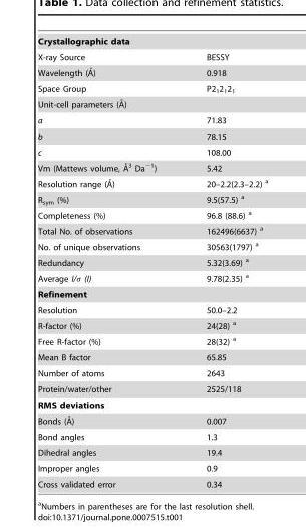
<table><tbody><tr><td colspan="2">Crystallographic data</td></tr><tr><td>X-ray Source</td><td>BESSY</td></tr><tr><td>Wavelength (A˚)</td><td>0.918</td></tr><tr><td>Space Group</td><td>P2<sub>1</sub>2<sub>1</sub>2<sub>1</sub></td></tr><tr><td colspan="2">Unit-cell parameters (A˚)</td></tr><tr><td>a</td><td>71.83</td></tr><tr><td>b</td><td>78.15</td></tr><tr><td>c</td><td>108.00</td></tr><tr><td>Vm (Mattews volume, A˚ 3 Da21)</td><td>5.42</td></tr><tr><td>Resolution range (A˚)</td><td>20–2.2(2.3–2.2) a</td></tr><tr><td>R<sub>sym</sub> (%)</td><td>9.5(57.5) a</td></tr><tr><td>Completeness (%)</td><td>96.8 (88.6) a</td></tr><tr><td>Total No. of observations</td><td>162496(6637) a</td></tr><tr><td>No. of unique observations</td><td>30563(1797) a</td></tr><tr><td>Redundancy</td><td>5.32(3.69) a</td></tr><tr><td>Average I/σ (I)</td><td>9.78(2.35) a</td></tr><tr><td colspan="2">Refinement</td></tr><tr><td>Resolution</td><td>50.0–2.2</td></tr><tr><td>R-factor (%)</td><td>24(28) a</td></tr><tr><td>Free R-factor (%)</td><td>28(32) a</td></tr><tr><td>Mean B factor</td><td>65.85</td></tr><tr><td>Number of atoms</td><td>2643</td></tr><tr><td>Protein/water/other</td><td>2525/118</td></tr><tr><td colspan="2">RMS deviations</td></tr><tr><td>Bonds (A˚)</td><td>0.007</td></tr><tr><td>Bond angles</td><td>1.3</td></tr><tr><td>Dihedral angles</td><td>19.4</td></tr><tr><td>Improper angles</td><td>0.9</td></tr><tr><td>Cross validated error</td><td>0.34</td></tr></tbody></table>